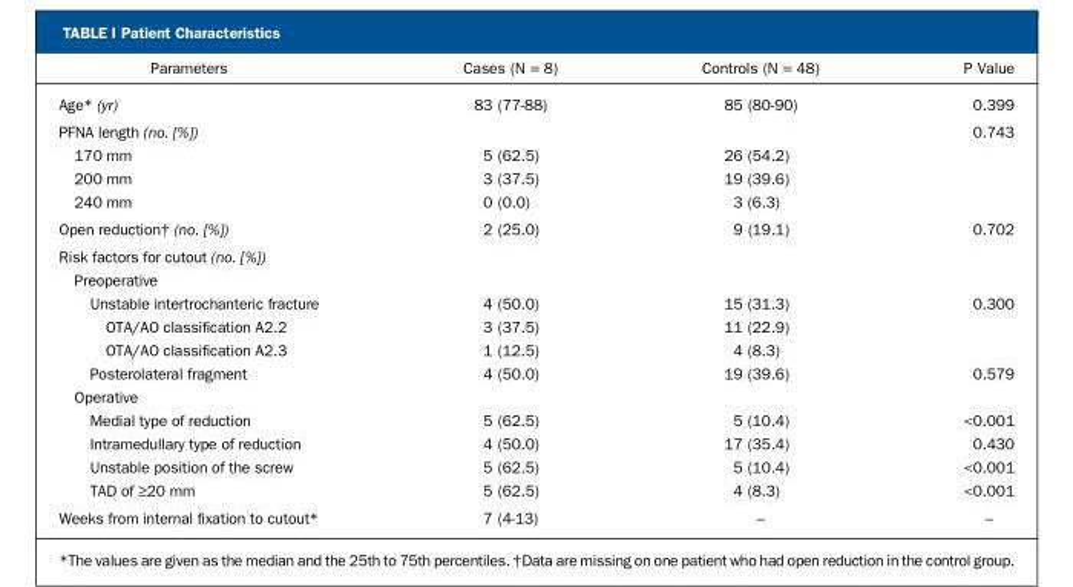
<table><thead><tr><td>Parameters</td><td>Cases (N = 8)</td><td>Controls (N = 48)</td><td>P Value</td></tr></thead><tbody><tr><td>Age* (yr)</td><td>83 (77-88)</td><td>85 (80-90)</td><td>0.399</td></tr><tr><td>PFNA length (no. [%])</td><td></td><td></td><td>0.743</td></tr><tr><td>170 mm</td><td>5 (62.5)</td><td>26 (54.2)</td><td></td></tr><tr><td>200 mm</td><td>3 (37.5)</td><td>19 (39.6)</td><td></td></tr><tr><td>240 mm</td><td>0 (0.0)</td><td>3 (6.3)</td><td></td></tr><tr><td>Open reduction† (no. [%])</td><td>2 (25.0)</td><td>9 (19.1)</td><td>0.702</td></tr><tr><td colspan="4">Risk factors for cutout (no. [%])</td></tr><tr><td colspan="4">Preoperative</td></tr><tr><td>Unstable intertrochanteric fracture</td><td>4 (50.0)</td><td>15 (31.3)</td><td>0.300</td></tr><tr><td>OTA/AO classification A2.2</td><td>3 (37.5)</td><td>11 (22.9)</td><td></td></tr><tr><td>OTA/AO classification A2.3</td><td>1 (12.5)</td><td>4 (8.3)</td><td></td></tr><tr><td>Posterolateral fragment</td><td>4 (50.0)</td><td>19 (39.6)</td><td>0.579</td></tr><tr><td colspan="4">Operative</td></tr><tr><td>Medial type of reduction</td><td>5 (62.5)</td><td>5 (10.4)</td><td>&lt;0.001</td></tr><tr><td>Intramedullary type of reduction</td><td>4 (50.0)</td><td>17 (35.4)</td><td>0.430</td></tr><tr><td>Unstable position of the screw</td><td>5 (62.5)</td><td>5 (10.4)</td><td>&lt;0.001</td></tr><tr><td>TAD of ‡20 mm</td><td>5 (62.5)</td><td>4 (8.3)</td><td>&lt;0.001</td></tr><tr><td>Weeks from internal fixation to cutout*</td><td>7 (4-13)</td><td>–</td><td>–</td></tr></tbody></table>